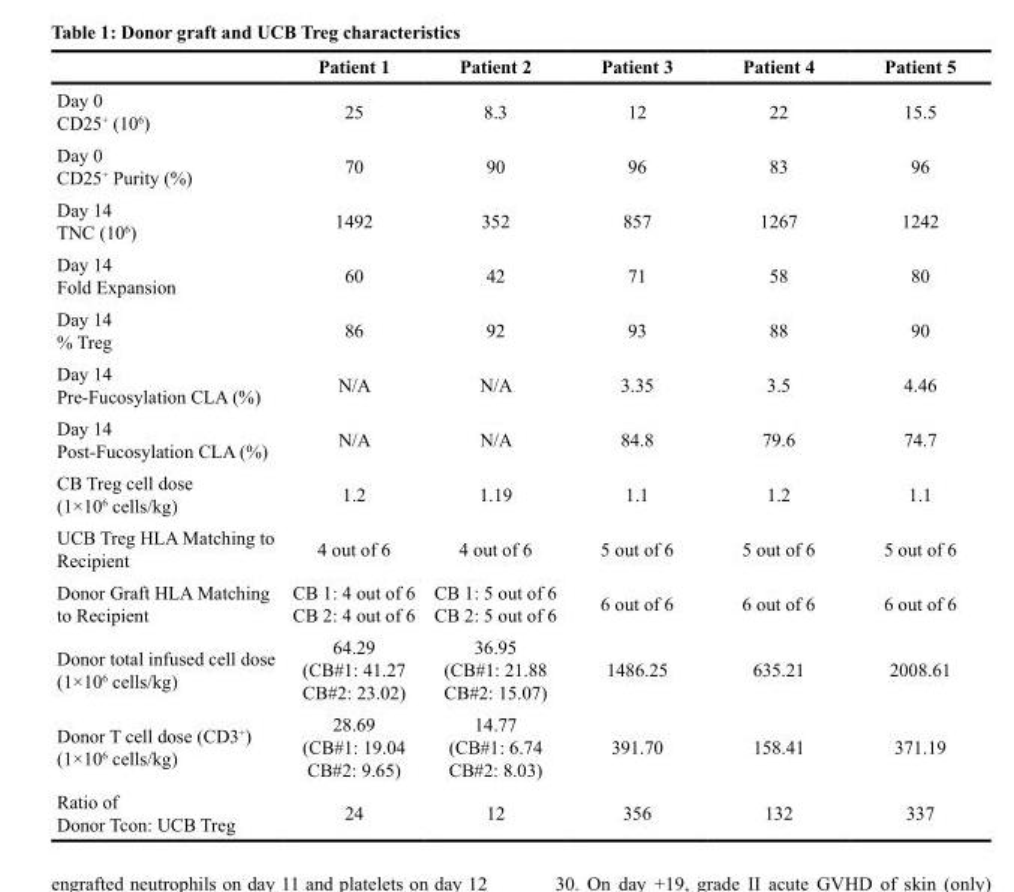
<table><thead><tr><td></td><td>Patient 1</td><td>Patient 2</td><td>Patient 3</td><td>Patient 4</td><td>Patient 5</td></tr></thead><tbody><tr><td>Day 0 CD25<sup>+</sup> (10<sup>6</sup>)</td><td>25</td><td>8.3</td><td>12</td><td>22</td><td>15.5</td></tr><tr><td>Day 0 CD25<sup>+</sup> Purity (%)</td><td>70</td><td>90</td><td>96</td><td>83</td><td>96</td></tr><tr><td>Day 14 TNC (10<sup>6</sup>)</td><td>1492</td><td>352</td><td>857</td><td>1267</td><td>1242</td></tr><tr><td>Day 14 Fold Expansion</td><td>60</td><td>42</td><td>71</td><td>58</td><td>80</td></tr><tr><td>Day 14 % Treg</td><td>86</td><td>92</td><td>93</td><td>88</td><td>90</td></tr><tr><td>Day 14 Pre-Fucosylation CLA (%)</td><td>N/A</td><td>N/A</td><td>3.35</td><td>3.5</td><td>4.46</td></tr><tr><td>Day 14 Post-Fucosylation CLA (%)</td><td>N/A</td><td>N/A</td><td>84.8</td><td>79.6</td><td>74.7</td></tr><tr><td>CB Treg cell dose (1×10<sup>6</sup> cells/kg)</td><td>1.2</td><td>1.19</td><td>1.1</td><td>1.2</td><td>1.1</td></tr><tr><td>UCB Treg HLA Matching to Recipient</td><td>4 out of 6</td><td>4 out of 6</td><td>5 out of 6</td><td>5 out of 6</td><td>5 out of 6</td></tr><tr><td>Donor Graft HLA Matching to Recipient</td><td>CB 1: 4 out of 6 CB 2: 4 out of 6</td><td>CB 1: 5 out of 6 CB 2: 5 out of 6</td><td>6 out of 6</td><td>6 out of 6</td><td>6 out of 6</td></tr><tr><td>Donor total infused cell dose (1×10<sup>6</sup> cells/kg)</td><td>64.29 (CB#1: 41.27 CB#2: 23.02)</td><td>36.95 (CB#1: 21.88 CB#2: 15.07)</td><td>1486.25</td><td>635.21</td><td>2008.61</td></tr><tr><td>Donor T cell dose (CD3<sup>+</sup>) (1×10<sup>6</sup> cells/kg)</td><td>28.69 (CB#1: 19.04 CB#2: 9.65)</td><td>14.77 (CB#1: 6.74 CB#2: 8.03)</td><td>391.70</td><td>158.41</td><td>371.19</td></tr><tr><td>Ratio of Donor Tcon: UCB Treg</td><td>24</td><td>12</td><td>356</td><td>132</td><td>337</td></tr></tbody></table>